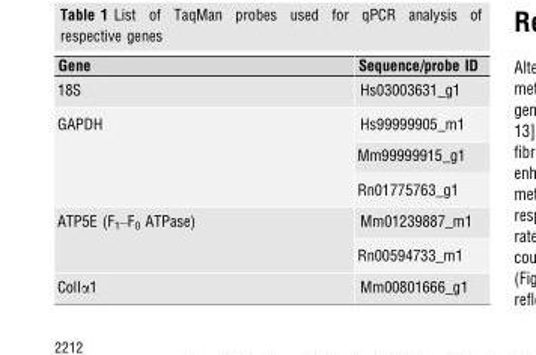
<table><thead><tr><td>Gene</td><td>Sequence/probe ID</td></tr></thead><tbody><tr><td>18S</td><td>Hs03003631_g1</td></tr><tr><td rowspan="3">GAPDH</td><td>Hs99999905_m1</td></tr><tr><td>Mm99999915_g1</td></tr><tr><td>Rn01775763_g1</td></tr><tr><td rowspan="2">ATP5E (F<sub>1</sub>–F<sub>0</sub> ATPase)</td><td>Mm01239887_m1</td></tr><tr><td>Rn00594733_m1</td></tr><tr><td>ColIα1</td><td>Mm00801666_g1</td></tr></tbody></table>